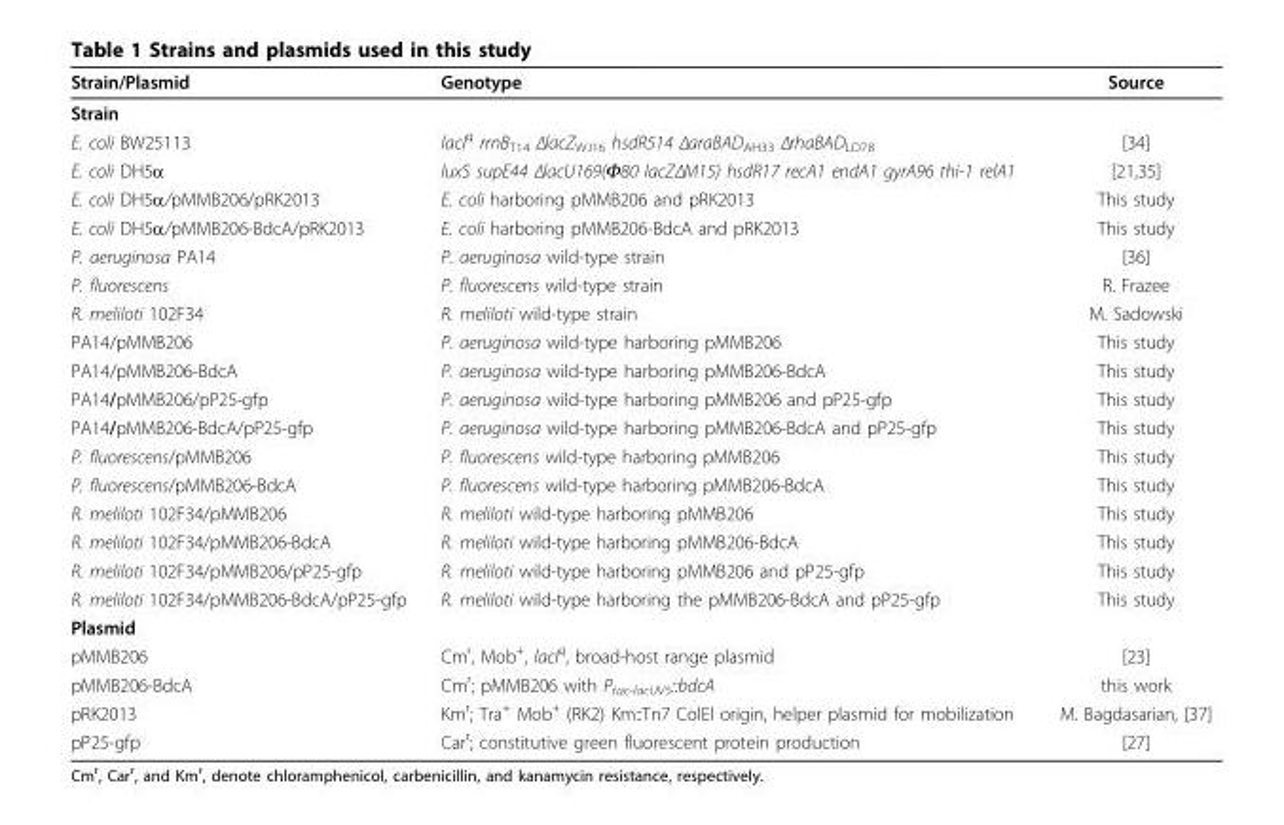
<table><thead><tr><td>Strain/Plasmid</td><td>Genotype</td><td>Source</td></tr></thead><tbody><tr><td colspan="3">Strain</td></tr><tr><td>E. coli BW25113</td><td>lacI<sup>q</sup> rrnB<sub>T14</sub> ΔlacZ<sub>WJ16</sub> hsdR514 ΔaraBAD<sub>AH33</sub> ΔrhaBAD<sub>LD78</sub></td><td>[34]</td></tr><tr><td>E. coli DH5α</td><td>luxS supE44 ΔlacU169(Φ80 lacZΔM15) hsdR17 recA1 endA1 gyrA96 thi-1 relA1</td><td>[21,35]</td></tr><tr><td>E. coli DH5α/pMMB206/pRK2013</td><td>E. coli harboring pMMB206 and pRK2013</td><td>This study</td></tr><tr><td>E. coli DH5α/pMMB206-BdcA/pRK2013</td><td>E. coli harboring pMMB206-BdcA and pRK2013</td><td>This study</td></tr><tr><td>P. aeruginosa PA14</td><td>P. aeruginosa wild-type strain</td><td>[36]</td></tr><tr><td>P. fluorescens</td><td>P. fluorescens wild-type strain</td><td>R. Frazee</td></tr><tr><td>R. meliloti 102F34</td><td>R. meliloti wild-type strain</td><td>M. Sadowski</td></tr><tr><td>PA14/pMMB206</td><td>P. aeruginosa wild-type harboring pMMB206</td><td>This study</td></tr><tr><td>PA14/pMMB206-BdcA</td><td>P. aeruginosa wild-type harboring pMMB206-BdcA</td><td>This study</td></tr><tr><td>PA14/pMMB206/pP25-gfp</td><td>P. aeruginosa wild-type harboring pMMB206 and pP25-gfp</td><td>This study</td></tr><tr><td>PA14/pMMB206-BdcA/pP25-gfp</td><td>P. aeruginosa wild-type harboring pMMB206-BdcA and pP25-gfp</td><td>This study</td></tr><tr><td>P. fluorescens/pMMB206</td><td>P. fluorescens wild-type harboring pMMB206</td><td>This study</td></tr><tr><td>P. fluorescens/pMMB206-BdcA</td><td>P. fluorescens wild-type harboring pMMB206-BdcA</td><td>This study</td></tr><tr><td>R. meliloti 102F34/pMMB206</td><td>R. meliloti wild-type harboring pMMB206</td><td>This study</td></tr><tr><td>R. meliloti 102F34/pMMB206-BdcA</td><td>R. meliloti wild-type harboring pMMB206-BdcA</td><td>This study</td></tr><tr><td>R. meliloti 102F34/pMMB206/pP25-gfp</td><td>R. meliloti wild-type harboring pMMB206 and pP25-gfp</td><td>This study</td></tr><tr><td>R. meliloti 102F34/pMMB206-BdcA/pP25-gfp</td><td>R. meliloti wild-type harboring the pMMB206-BdcA and pP25-gfp</td><td>This study</td></tr><tr><td colspan="3">Plasmid</td></tr><tr><td>pMMB206</td><td>Cm<sup>r</sup>, Mob<sup>+</sup>, lacI<sup>q</sup>, broad-host range plasmid</td><td>[23]</td></tr><tr><td>pMMB206-BdcA</td><td>Cm<sup>r</sup>; pMMB206 with P<sub>tac-lacUV5</sub>::bdcA</td><td>this work</td></tr><tr><td>pRK2013</td><td>Km<sup>r</sup>; Tra<sup>+</sup> Mob<sup>+</sup> (RK2) Km::Tn7 ColEl origin, helper plasmid for mobilization</td><td>M. Bagdasarian, [37]</td></tr><tr><td>pP25-gfp</td><td>Car<sup>r</sup>; constitutive green fluorescent protein production</td><td>[27]</td></tr></tbody></table>